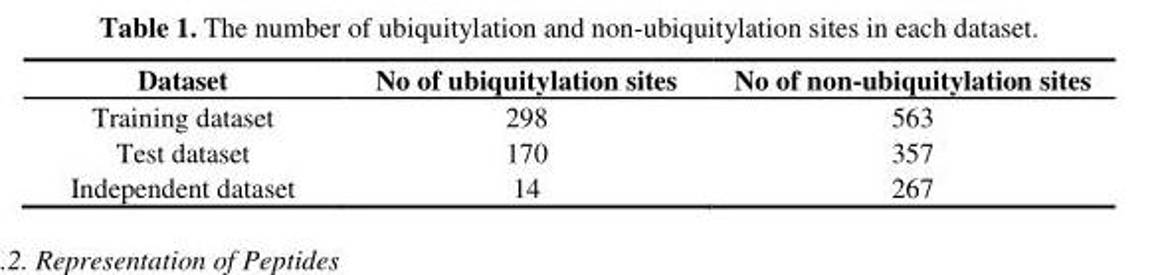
<table><thead><tr><td>Dataset</td><td>No of ubiquitylation sites</td><td>No of non-ubiquitylation sites</td></tr></thead><tbody><tr><td>Training dataset</td><td>298</td><td>563</td></tr><tr><td>Test dataset</td><td>170</td><td>357</td></tr><tr><td>Independent dataset</td><td>14</td><td>267</td></tr></tbody></table>